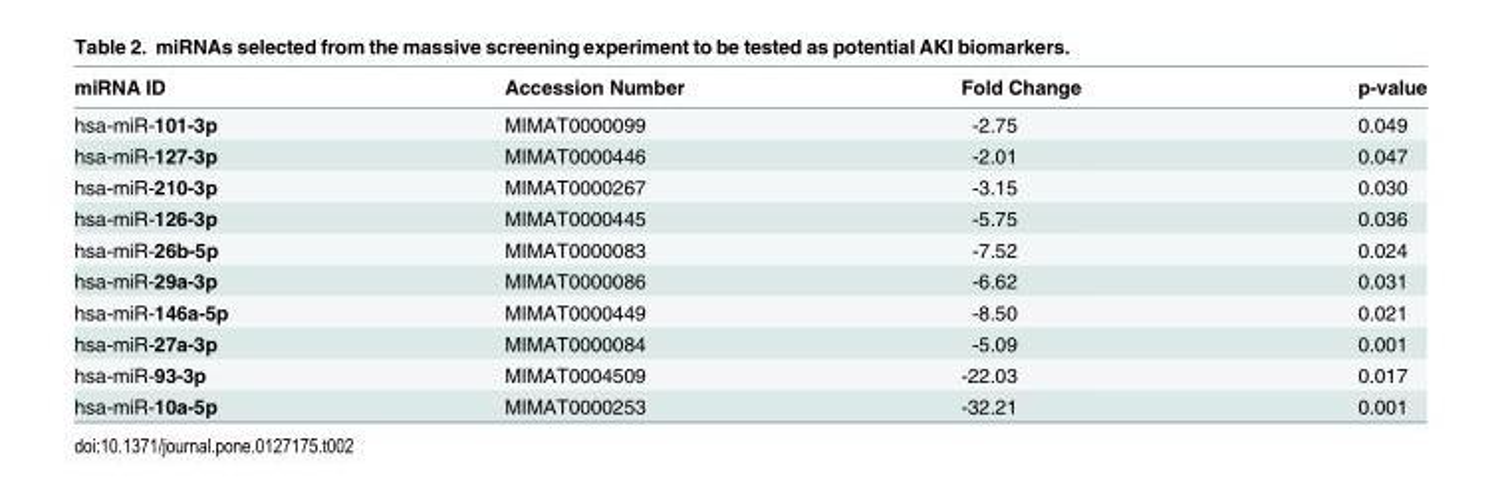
<table><thead><tr><td>miRNA ID</td><td>Accession Number</td><td>Fold Change</td><td>p-value</td></tr></thead><tbody><tr><td>hsa-miR-101-3p</td><td>MIMAT0000099</td><td>-2.75</td><td>0.049</td></tr><tr><td>hsa-miR-127-3p</td><td>MIMAT0000446</td><td>-2.01</td><td>0.047</td></tr><tr><td>hsa-miR-210-3p</td><td>MIMAT0000267</td><td>-3.15</td><td>0.030</td></tr><tr><td>hsa-miR-126-3p</td><td>MIMAT0000445</td><td>-5.75</td><td>0.036</td></tr><tr><td>hsa-miR-26b-5p</td><td>MIMAT0000083</td><td>-7.52</td><td>0.024</td></tr><tr><td>hsa-miR-29a-3p</td><td>MIMAT0000086</td><td>-6.62</td><td>0.031</td></tr><tr><td>hsa-miR-146a-5p</td><td>MIMAT0000449</td><td>-8.50</td><td>0.021</td></tr><tr><td>hsa-miR-27a-3p</td><td>MIMAT0000084</td><td>-5.09</td><td>0.001</td></tr><tr><td>hsa-miR-93-3p</td><td>MIMAT0004509</td><td>-22.03</td><td>0.017</td></tr><tr><td>hsa-miR-10a-5p</td><td>MIMAT0000253</td><td>-32.21</td><td>0.001</td></tr></tbody></table>